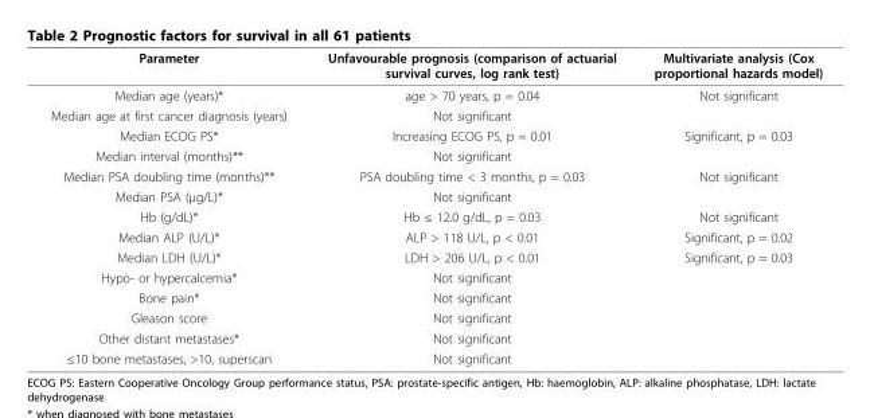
<table><thead><tr><td>Parameter</td><td>Unfavourable prognosis (comparison of actuarial survival curves, log rank test)</td><td>Multivariate analysis (Cox proportional hazards model)</td></tr></thead><tbody><tr><td>Median age (years)*</td><td>age &gt; 70 years, p = 0.04</td><td>Not significant</td></tr><tr><td>Median age at first cancer diagnosis (years)</td><td>Not significant</td><td></td></tr><tr><td>Median ECOG PS*</td><td>Increasing ECOG PS, p = 0.01</td><td>Significant, p = 0.03</td></tr><tr><td>Median interval (months)**</td><td>Not significant</td><td></td></tr><tr><td>Median PSA doubling time (months)**</td><td>PSA doubling time &lt; 3 months, p = 0.03</td><td>Not significant</td></tr><tr><td>Median PSA (μg/L)*</td><td>Not significant</td><td></td></tr><tr><td>Hb (g/dL)*</td><td>Hb ≤ 12.0 g/dL, p = 0.03</td><td>Not significant</td></tr><tr><td>Median ALP (U/L)*</td><td>ALP &gt; 118 U/L, p &lt; 0.01</td><td>Significant, p = 0.02</td></tr><tr><td>Median LDH (U/L)*</td><td>LDH &gt; 206 U/L, p &lt; 0.01</td><td>Significant, p = 0.03</td></tr><tr><td>Hypo- or hypercalcemia*</td><td>Not significant</td><td></td></tr><tr><td>Bone pain*</td><td>Not significant</td><td></td></tr><tr><td>Gleason score</td><td>Not significant</td><td></td></tr><tr><td>Other distant metastases*</td><td>Not significant</td><td></td></tr><tr><td>≤10 bone metastases, &gt;10, superscan</td><td>Not significant</td><td></td></tr></tbody></table>